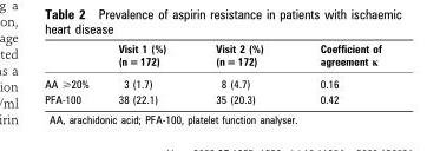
<table><thead><tr><td></td><td>Visit 1 (%) (n = 172)</td><td>Visit 2 (%) (n = 172)</td><td>Coefficient of agreement κ</td></tr></thead><tbody><tr><td>AA &gt;20%</td><td>3 (1.7)</td><td>8 (4.7)</td><td>0.16</td></tr><tr><td>PFA-100</td><td>38 (22.1)</td><td>35 (20.3)</td><td>0.42</td></tr></tbody></table>